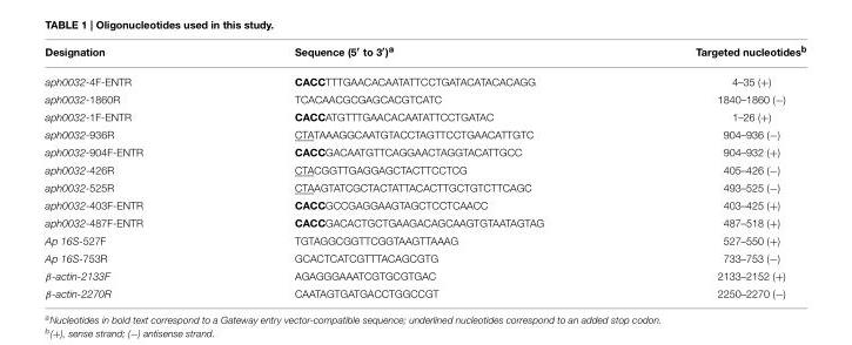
<table><thead><tr><td>Designation</td><td>Sequence (5′ to 3′)<sup>a</sup></td><td>Targeted nucleotides<sup>b</sup></td></tr></thead><tbody><tr><td>aph0032-4F-ENTR</td><td>CACCTTTGAACACAATATTCCTGATACATACACAGG</td><td>4–35 (+)</td></tr><tr><td>aph0032-1860R</td><td>TCACAACGCGAGCACGTCATC</td><td>1840–1860 (−)</td></tr><tr><td>aph0032-1F-ENTR</td><td>CACCATGTTTGAACACAATATTCCTGATAC</td><td>1–26 (+)</td></tr><tr><td>aph0032-936R</td><td>CTATAAAGGCAATGTACCTAGTTCCTGAACATTGTC</td><td>904–936 (−)</td></tr><tr><td>aph0032-904F-ENTR</td><td>CACCGACAATGTTCAGGAACTAGGTACATTGCC</td><td>904–932 (+)</td></tr><tr><td>aph0032-426R</td><td>CTACGGTTGAGGAGCTACTTCCTCG</td><td>405–426 (−)</td></tr><tr><td>aph0032-525R</td><td>CTAAGTATCGCTACTATTACACTTGCTGTCTTCAGC</td><td>493–525 (−)</td></tr><tr><td>aph0032-403F-ENTR</td><td>CACCGCCGAGGAAGTAGCTCCTCAACC</td><td>403–425 (+)</td></tr><tr><td>aph0032-487F-ENTR</td><td>CACCGACACTGCTGAAGACAGCAAGTGTAATAGTAG</td><td>487–518 (+)</td></tr><tr><td>Ap 16S-527F</td><td>TGTAGGCGGTTCGGTAAGTTAAAG</td><td>527–550 (+)</td></tr><tr><td>Ap 16S-753R</td><td>GCACTCATCGTTTACAGCGTG</td><td>733–753 (−)</td></tr><tr><td>β-actin-2133F</td><td>AGAGGGAAATCGTGCGTGAC</td><td>2133–2152 (+)</td></tr><tr><td>β-actin-2270R</td><td>CAATAGTGATGACCTGGCCGT</td><td>2250–2270 (−)</td></tr></tbody></table>